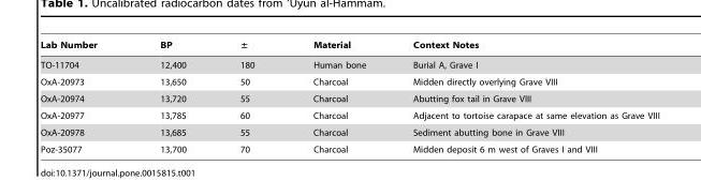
<table><thead><tr><td>Lab Number</td><td>BP</td><td>±</td><td>Material</td><td>Context Notes</td></tr></thead><tbody><tr><td>TO-11704</td><td>12,400</td><td>180</td><td>Human bone</td><td>Burial A, Grave I</td></tr><tr><td>OxA-20973</td><td>13,650</td><td>50</td><td>Charcoal</td><td>Midden directly overlying Grave VIII</td></tr><tr><td>OxA-20974</td><td>13,720</td><td>55</td><td>Charcoal</td><td>Abutting fox tail in Grave VIII</td></tr><tr><td>OxA-20977</td><td>13,785</td><td>60</td><td>Charcoal</td><td>Adjacent to tortoise carapace at same elevation as Grave VIII</td></tr><tr><td>OxA-20978</td><td>13,685</td><td>55</td><td>Charcoal</td><td>Sediment abutting bone in Grave VIII</td></tr><tr><td>Poz-35077</td><td>13,700</td><td>70</td><td>Charcoal</td><td>Midden deposit 6 m west of Graves I and VIII</td></tr></tbody></table>